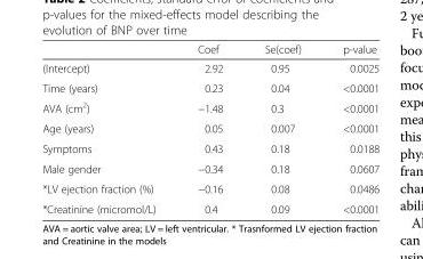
<table><thead><tr><td></td><td>Coef</td><td>Se(coef)</td><td>p-value</td></tr></thead><tbody><tr><td>(Intercept)</td><td>2.92</td><td>0.95</td><td>0.0025</td></tr><tr><td>Time (years)</td><td>0.23</td><td>0.04</td><td>&lt;0.0001</td></tr><tr><td>AVA (cm<sup>2</sup>)</td><td>−1.48</td><td>0.3</td><td>&lt;0.0001</td></tr><tr><td>Age (years)</td><td>0.05</td><td>0.007</td><td>&lt;0.0001</td></tr><tr><td>Symptoms</td><td>0.43</td><td>0.18</td><td>0.0188</td></tr><tr><td>Male gender</td><td>−0.34</td><td>0.18</td><td>0.0607</td></tr><tr><td>*LV ejection fraction (%)</td><td>−0.16</td><td>0.08</td><td>0.0486</td></tr><tr><td>*Creatinine (micromol/L)</td><td>0.4</td><td>0.09</td><td>&lt;0.0001</td></tr></tbody></table>